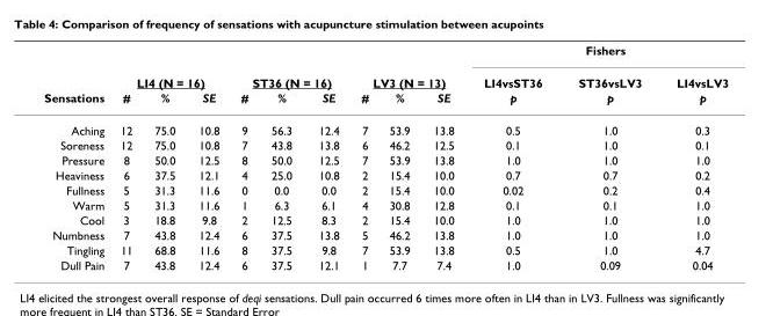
<table><thead><tr><td rowspan="3">Sensations</td><td></td><td></td><td></td><td></td><td></td><td></td><td></td><td></td><td></td><td colspan="3">Fishers</td></tr><tr><td colspan="3">LI4 (N = 16)</td><td colspan="3">ST36 (N = 16)</td><td colspan="3">LV3 (N = 13)</td><td rowspan="2">LI4vsST36 p</td><td rowspan="2">ST36vsLV3 p</td><td rowspan="2">LI4vsLV3 p</td></tr><tr><td>#</td><td>%</td><td>SE</td><td>#</td><td>%</td><td>SE</td><td>#</td><td>%</td><td>SE</td></tr></thead><tbody><tr><td>Aching</td><td>12</td><td>75.0</td><td>10.8</td><td>9</td><td>56.3</td><td>12.4</td><td>7</td><td>53.9</td><td>13.8</td><td>0.5</td><td>1.0</td><td>0.3</td></tr><tr><td>Soreness</td><td>12</td><td>75.0</td><td>10.8</td><td>7</td><td>43.8</td><td>13.8</td><td>6</td><td>46.2</td><td>12.5</td><td>0.1</td><td>1.0</td><td>0.1</td></tr><tr><td>Pressure</td><td>8</td><td>50.0</td><td>12.5</td><td>8</td><td>50.0</td><td>12.5</td><td>7</td><td>53.9</td><td>13.8</td><td>1.0</td><td>1.0</td><td>1.0</td></tr><tr><td>Heaviness</td><td>6</td><td>37.5</td><td>12.1</td><td>4</td><td>25.0</td><td>10.8</td><td>2</td><td>15.4</td><td>10.0</td><td>0.7</td><td>0.7</td><td>0.2</td></tr><tr><td>Fullness</td><td>5</td><td>31.3</td><td>11.6</td><td>0</td><td>0.0</td><td>0.0</td><td>2</td><td>15.4</td><td>10.0</td><td>0.02</td><td>0.2</td><td>0.4</td></tr><tr><td>Warm</td><td>5</td><td>31.3</td><td>11.6</td><td>1</td><td>6.3</td><td>6.1</td><td>4</td><td>30.8</td><td>12.8</td><td>0.1</td><td>0.1</td><td>1.0</td></tr><tr><td>Cool</td><td>3</td><td>18.8</td><td>9.8</td><td>2</td><td>12.5</td><td>8.3</td><td>2</td><td>15.4</td><td>10.0</td><td>1.0</td><td>1.0</td><td>1.0</td></tr><tr><td>Numbness</td><td>7</td><td>43.8</td><td>12.4</td><td>6</td><td>37.5</td><td>13.8</td><td>5</td><td>46.2</td><td>13.8</td><td>1.0</td><td>1.0</td><td>1.0</td></tr><tr><td>Tingling</td><td>11</td><td>68.8</td><td>11.6</td><td>8</td><td>37.5</td><td>9.8</td><td>7</td><td>53.9</td><td>13.8</td><td>0.5</td><td>1.0</td><td>4.7</td></tr><tr><td>Dull Pain</td><td>7</td><td>43.8</td><td>12.4</td><td>6</td><td>37.5</td><td>12.1</td><td>1</td><td>7.7</td><td>7.4</td><td>1.0</td><td>0.09</td><td>0.04</td></tr></tbody></table>